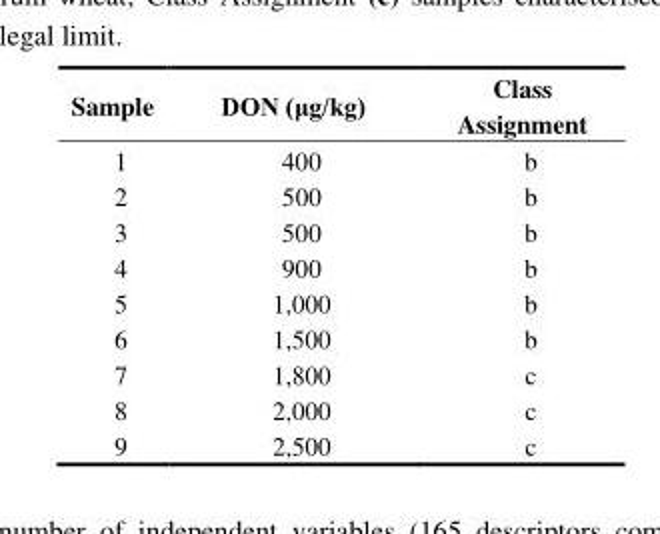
<table><thead><tr><td>Sample</td><td>DON (μg/kg)</td><td>Class Assignment</td></tr></thead><tbody><tr><td>1</td><td>400</td><td>b</td></tr><tr><td>2</td><td>500</td><td>b</td></tr><tr><td>3</td><td>500</td><td>b</td></tr><tr><td>4</td><td>900</td><td>b</td></tr><tr><td>5</td><td>1,000</td><td>b</td></tr><tr><td>6</td><td>1,500</td><td>b</td></tr><tr><td>7</td><td>1,800</td><td>c</td></tr><tr><td>8</td><td>2,000</td><td>c</td></tr><tr><td>9</td><td>2,500</td><td>c</td></tr></tbody></table>